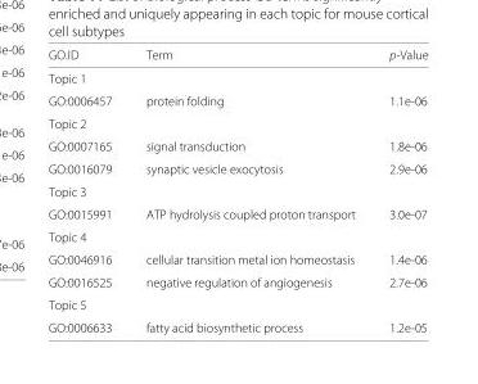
<table><thead><tr><td>GO.ID</td><td>Term</td><td>p-Value</td></tr></thead><tbody><tr><td colspan="3">Topic 1</td></tr><tr><td>GO:0006457</td><td>protein folding</td><td>1.1e-06</td></tr><tr><td colspan="3">Topic 2</td></tr><tr><td>GO:0007165</td><td>signal transduction</td><td>1.8e-06</td></tr><tr><td>GO:0016079</td><td>synaptic vesicle exocytosis</td><td>2.9e-06</td></tr><tr><td colspan="3">Topic 3</td></tr><tr><td>GO:0015991</td><td>ATP hydrolysis coupled proton transport</td><td>3.0e-07</td></tr><tr><td colspan="3">Topic 4</td></tr><tr><td>GO:0046916</td><td>cellular transition metal ion homeostasis</td><td>1.4e-06</td></tr><tr><td>GO:0016525</td><td>negative regulation of angiogenesis</td><td>2.7e-06</td></tr><tr><td colspan="3">Topic 5</td></tr><tr><td>GO:0006633</td><td>fatty acid biosynthetic process</td><td>1.2e-05</td></tr></tbody></table>